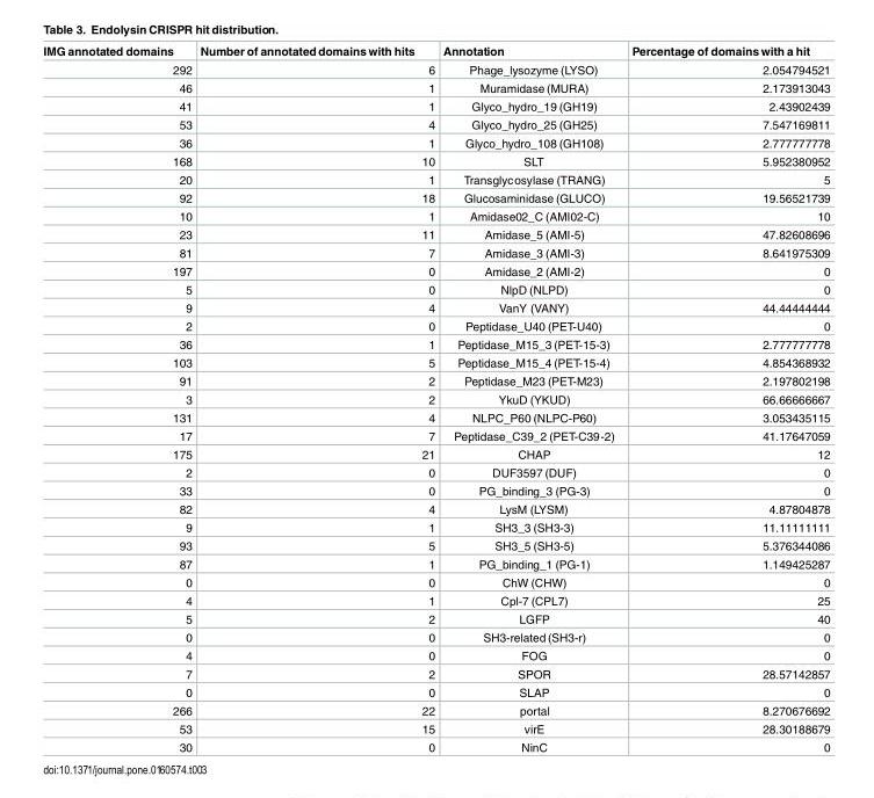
<table><thead><tr><td>IMG annotated domains</td><td>Number of annotated domains with hits</td><td>Annotation</td><td>Percentage of domains with a hit</td></tr></thead><tbody><tr><td>292</td><td>6</td><td>Phage_lysozyme (LYSO)</td><td>2.054794521</td></tr><tr><td>46</td><td>1</td><td>Muramidase (MURA)</td><td>2.173913043</td></tr><tr><td>41</td><td>1</td><td>Glyco_hydro_19 (GH19)</td><td>2.43902439</td></tr><tr><td>53</td><td>4</td><td>Glyco_hydro_25 (GH25)</td><td>7.547169811</td></tr><tr><td>36</td><td>1</td><td>Glyco_hydro_108 (GH108)</td><td>2.777777778</td></tr><tr><td>168</td><td>10</td><td>SLT</td><td>5.952380952</td></tr><tr><td>20</td><td>1</td><td>Transglycosylase (TRANG)</td><td>5</td></tr><tr><td>92</td><td>18</td><td>Glucosaminidase (GLUCO)</td><td>19.56521739</td></tr><tr><td>10</td><td>1</td><td>Amidase02_C (AMI02-C)</td><td>10</td></tr><tr><td>23</td><td>11</td><td>Amidase_5 (AMI-5)</td><td>47.82608696</td></tr><tr><td>81</td><td>7</td><td>Amidase_3 (AMI-3)</td><td>8.641975309</td></tr><tr><td>197</td><td>0</td><td>Amidase_2 (AMI-2)</td><td>0</td></tr><tr><td>5</td><td>0</td><td>NlpD (NLPD)</td><td>0</td></tr><tr><td>9</td><td>4</td><td>VanY (VANY)</td><td>44.44444444</td></tr><tr><td>2</td><td>0</td><td>Peptidase_U40 (PET-U40)</td><td>0</td></tr><tr><td>36</td><td>1</td><td>Peptidase_M15_3 (PET-15-3)</td><td>2.777777778</td></tr><tr><td>103</td><td>5</td><td>Peptidase_M15_4 (PET-15-4)</td><td>4.854368932</td></tr><tr><td>91</td><td>2</td><td>Peptidase_M23 (PET-M23)</td><td>2.197802198</td></tr><tr><td>3</td><td>2</td><td>YkuD (YKUD)</td><td>66.66666667</td></tr><tr><td>131</td><td>4</td><td>NLPC_P60 (NLPC-P60)</td><td>3.053435115</td></tr><tr><td>17</td><td>7</td><td>Peptidase_C39_2 (PET-C39-2)</td><td>41.17647059</td></tr><tr><td>175</td><td>21</td><td>CHAP</td><td>12</td></tr><tr><td>2</td><td>0</td><td>DUF3597 (DUF)</td><td>0</td></tr><tr><td>33</td><td>0</td><td>PG_binding_3 (PG-3)</td><td>0</td></tr><tr><td>82</td><td>4</td><td>LysM (LYSM)</td><td>4.87804878</td></tr><tr><td>9</td><td>1</td><td>SH3_3 (SH3-3)</td><td>11.11111111</td></tr><tr><td>93</td><td>5</td><td>SH3_5 (SH3-5)</td><td>5.376344086</td></tr><tr><td>87</td><td>1</td><td>PG_binding_1 (PG-1)</td><td>1.149425287</td></tr><tr><td>0</td><td>0</td><td>ChW (CHW)</td><td>0</td></tr><tr><td>4</td><td>1</td><td>Cpl-7 (CPL7)</td><td>25</td></tr><tr><td>5</td><td>2</td><td>LGFP</td><td>40</td></tr><tr><td>0</td><td>0</td><td>SH3-related (SH3-r)</td><td>0</td></tr><tr><td>4</td><td>0</td><td>FOG</td><td>0</td></tr><tr><td>7</td><td>2</td><td>SPOR</td><td>28.57142857</td></tr><tr><td>0</td><td>0</td><td>SLAP</td><td>0</td></tr><tr><td>266</td><td>22</td><td>portal</td><td>8.270676692</td></tr><tr><td>53</td><td>15</td><td>virE</td><td>28.30188679</td></tr><tr><td>30</td><td>0</td><td>NinC</td><td>0</td></tr></tbody></table>